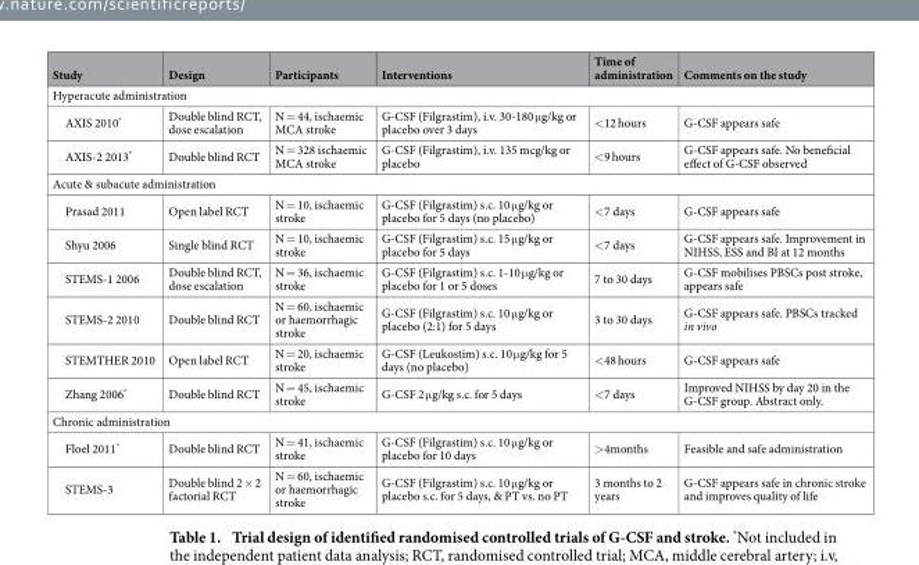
<table><thead><tr><td>Study</td><td>Design</td><td>Participants</td><td>Interventions</td><td>Time of administration</td><td>Comments on the study</td></tr></thead><tbody><tr><td colspan="6">Hyperacute administration</td></tr><tr><td>AXIS 2010*</td><td>Double blind RCT, dose escalation</td><td>N = 44, ischaemic MCA stroke</td><td>G-CSF (Filgrastim), i.v. 30-180 μ g/kg or placebo over 3 days</td><td>&lt; 12 hours</td><td>G-CSF appears safe</td></tr><tr><td>AXIS-2 2013*</td><td>Double blind RCT</td><td>N = 328 ischaemic MCA stroke</td><td>G-CSF (Filgrastim), i.v. 135 mcg/kg or placebo</td><td>&lt; 9 hours</td><td>G-CSF appears safe. No beneficial effect of G-CSF observed</td></tr><tr><td colspan="6">Acute &amp; subacute administration</td></tr><tr><td>Prasad 2011</td><td>Open label RCT</td><td>N = 10, ischaemic stroke</td><td>G-CSF (Filgrastim) s.c. 10 μ g/kg or placebo for 5 days (no placebo)</td><td>&lt; 7 days</td><td>G-CSF appears safe</td></tr><tr><td>Shyu 2006</td><td>Single blind RCT</td><td>N = 10, ischaemic stroke</td><td>G-CSF (Filgrastim) s.c. 15 μ g/kg or placebo for 5 days</td><td>&lt; 7 days</td><td>G-CSF appears safe. Improvement in NIHSS, ESS and BI at 12 months</td></tr><tr><td>STEMS-1 2006</td><td>Double blind RCT, dose escalation</td><td>N = 36, ischaemic stroke</td><td>G-CSF (Filgrastim) s.c. 1-10 μ g/kg or placebo for 1 or 5 doses</td><td>7 to 30 days</td><td>G-CSF mobilises PBSCs post stroke, appears safe</td></tr><tr><td>STEMS-2 2010</td><td>Double blind RCT</td><td>N = 60, ischaemic or haemorrhagic stroke</td><td>G-CSF (Filgrastim) s.c. 10 μ g/kg or placebo (2:1) for 5 days</td><td>3 to 30 days</td><td>G-CSF appears safe. PBSCs tracked in vivo</td></tr><tr><td>STEMTHER 2010</td><td>Open label RCT</td><td>N = 20, ischaemic stroke</td><td>G-CSF (Leukostim) s.c. 10 μ g/kg for 5 days (no placebo)</td><td>&lt; 48 hours</td><td>G-CSF appears safe</td></tr><tr><td>Zhang 2006*</td><td>Double blind RCT</td><td>N = 45, ischaemic stroke</td><td>G-CSF 2 μ g/kg s.c. for 5 days</td><td>&lt; 7 days</td><td>Improved NIHSS by day 20 in the G-CSF group. Abstract only.</td></tr><tr><td colspan="6">Chronic administration</td></tr><tr><td>Floel 2011*</td><td>Double blind RCT</td><td>N = 41, ischaemic stroke</td><td>G-CSF (Filgrastim) s.c. 10 μ g/kg or placebo for 10 days</td><td>&gt; 4months</td><td>Feasible and safe administration</td></tr><tr><td>STEMS-3</td><td>Double blind 2 × 2 factorial RCT</td><td>N = 60, ischaemic or haemorrhagic stroke</td><td>G-CSF (Filgrastim) s.c. 10 μ g/kg or placebo s.c. for 5 days, &amp; PT vs. no PT</td><td>3 months to 2 years</td><td>G-CSF appears safe in chronic stroke and improves quality of life</td></tr></tbody></table>